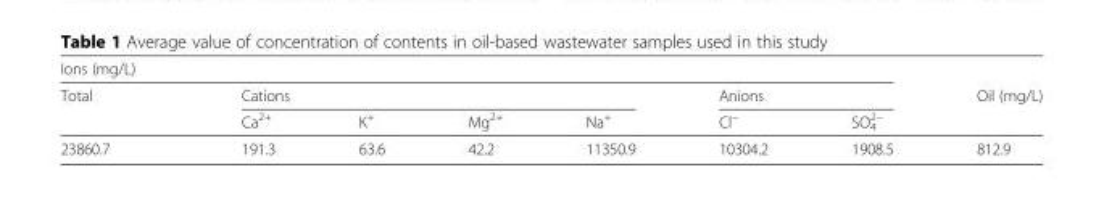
<table><thead><tr><td colspan="7">Ions (mg/L)</td><td rowspan="3">Oil (mg/L)</td></tr><tr><td rowspan="2">Total</td><td colspan="4">Cations</td><td colspan="2">Anions</td></tr><tr><td>Ca<sup>2+</sup></td><td>K<sup>+</sup></td><td>Mg<sup>2+</sup></td><td>Na<sup>+</sup></td><td>Cl<sup>−</sup></td><td>SO<sub>4</sub> <sup>2−</sup></td></tr></thead><tbody><tr><td>23860.7</td><td>191.3</td><td>63.6</td><td>42.2</td><td>11350.9</td><td>10304.2</td><td>1908.5</td><td>812.9</td></tr></tbody></table>